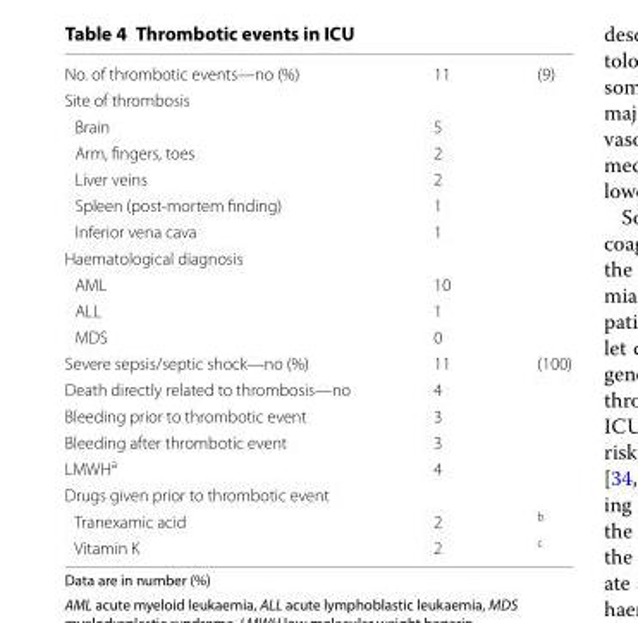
<table><tbody><tr><td>No. of thrombotic events—no (%)</td><td>11</td><td>(9)</td></tr><tr><td colspan="3">Site of thrombosis</td></tr><tr><td>Brain</td><td>5</td><td></td></tr><tr><td>Arm, fingers, toes</td><td>2</td><td></td></tr><tr><td>Liver veins</td><td>2</td><td></td></tr><tr><td>Spleen (post-mortem finding)</td><td>1</td><td></td></tr><tr><td>Inferior vena cava</td><td>1</td><td></td></tr><tr><td colspan="3">Haematological diagnosis</td></tr><tr><td>AML</td><td>10</td><td></td></tr><tr><td>ALL</td><td>1</td><td></td></tr><tr><td>MDS</td><td>0</td><td></td></tr><tr><td>Severe sepsis/septic shock—no (%)</td><td>11</td><td>(100)</td></tr><tr><td>Death directly related to thrombosis—no</td><td>4</td><td></td></tr><tr><td>Bleeding prior to thrombotic event</td><td>3</td><td></td></tr><tr><td>Bleeding after thrombotic event</td><td>3</td><td></td></tr><tr><td>LMWH<sup>a</sup></td><td>4</td><td></td></tr><tr><td colspan="3">Drugs given prior to thrombotic event</td></tr><tr><td>Tranexamic acid</td><td>2</td><td><sup>b</sup></td></tr><tr><td>Vitamin K</td><td>2</td><td><sup>c</sup></td></tr></tbody></table>